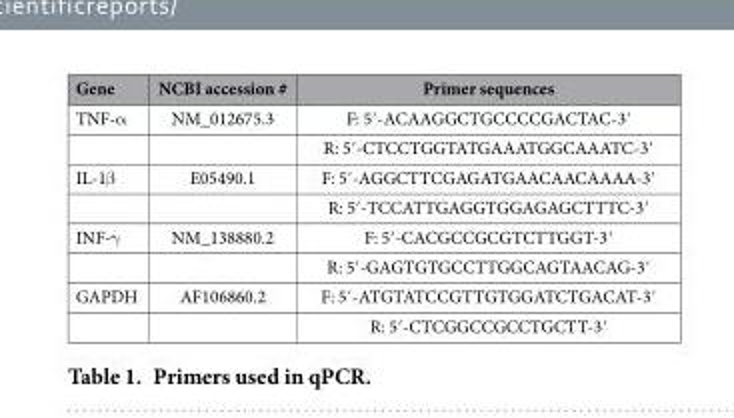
<table><thead><tr><td>Gene</td><td>NCBI accession #</td><td>Primer sequences</td></tr></thead><tbody><tr><td rowspan="2">TNF-α</td><td>NM_012675.3</td><td>F: 5′-ACAAGGCTGCCCCGACTAC-3′</td></tr><tr><td></td><td>R: 5′-CTCCTGGTATGAAATGGCAAATC-3′</td></tr><tr><td rowspan="2">IL-1β</td><td>E05490.1</td><td>F: 5′-AGGCTTCGAGATGAACAACAAAA-3′</td></tr><tr><td></td><td>R: 5′-TCCATTGAGGTGGAGAGCTTTC-3′</td></tr><tr><td rowspan="2">INF-γ</td><td>NM_138880.2</td><td>F: 5′-CACGCCGCGTCTTGGT-3′</td></tr><tr><td></td><td>R: 5′-GAGTGTGCCTTGGCAGTAACAG-3′</td></tr><tr><td rowspan="2">GAPDH</td><td>AF106860.2</td><td>F: 5′-ATGTATCCGTTGTGGATCTGACAT-3′</td></tr><tr><td></td><td>R: 5′-CTCGGCCGCCTGCTT-3′</td></tr></tbody></table>